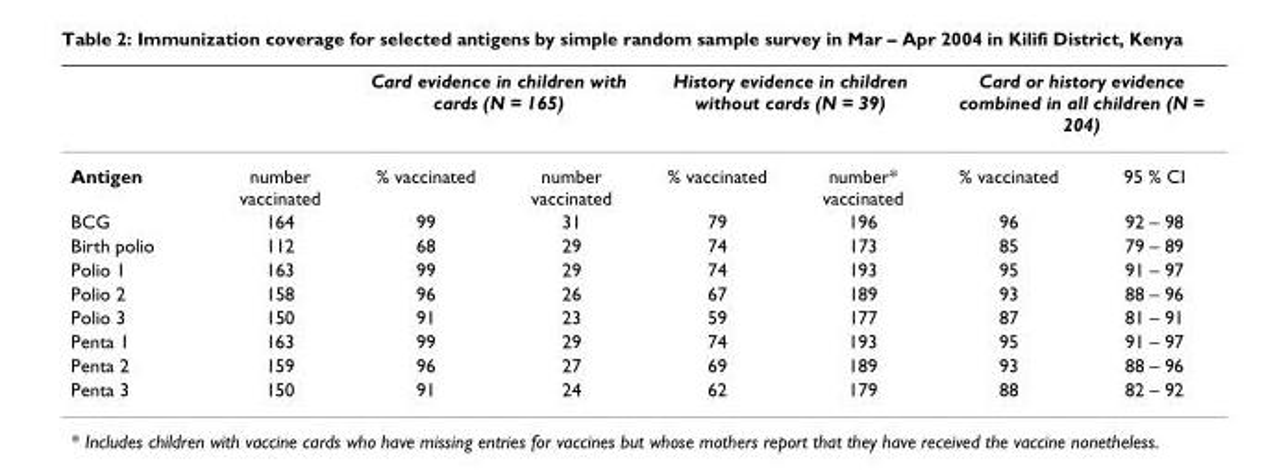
<table><thead><tr><td rowspan="2">Antigen</td><td rowspan="2">number vaccinated</td><td colspan="2">Card evidence in children with cards (N = 165)</td><td colspan="2">History evidence in children without cards (N = 39)</td><td colspan="2">Card or history evidence combined in all children (N = 204)</td></tr><tr><td>% vaccinated</td><td>number vaccinated</td><td>% vaccinated</td><td>number* vaccinated</td><td>% vaccinated</td><td>95 % CI</td></tr></thead><tbody><tr><td>BCG</td><td>164</td><td>99</td><td>31</td><td>79</td><td>196</td><td>96</td><td>92 – 98</td></tr><tr><td>Birth polio</td><td>112</td><td>68</td><td>29</td><td>74</td><td>173</td><td>85</td><td>79 – 89</td></tr><tr><td>Polio 1</td><td>163</td><td>99</td><td>29</td><td>74</td><td>193</td><td>95</td><td>91 – 97</td></tr><tr><td>Polio 2</td><td>158</td><td>96</td><td>26</td><td>67</td><td>189</td><td>93</td><td>88 – 96</td></tr><tr><td>Polio 3</td><td>150</td><td>91</td><td>23</td><td>59</td><td>177</td><td>87</td><td>81 – 91</td></tr><tr><td>Penta 1</td><td>163</td><td>99</td><td>29</td><td>74</td><td>193</td><td>95</td><td>91 – 97</td></tr><tr><td>Penta 2</td><td>159</td><td>96</td><td>27</td><td>69</td><td>189</td><td>93</td><td>88 – 96</td></tr><tr><td>Penta 3</td><td>150</td><td>91</td><td>24</td><td>62</td><td>179</td><td>88</td><td>82 – 92</td></tr></tbody></table>